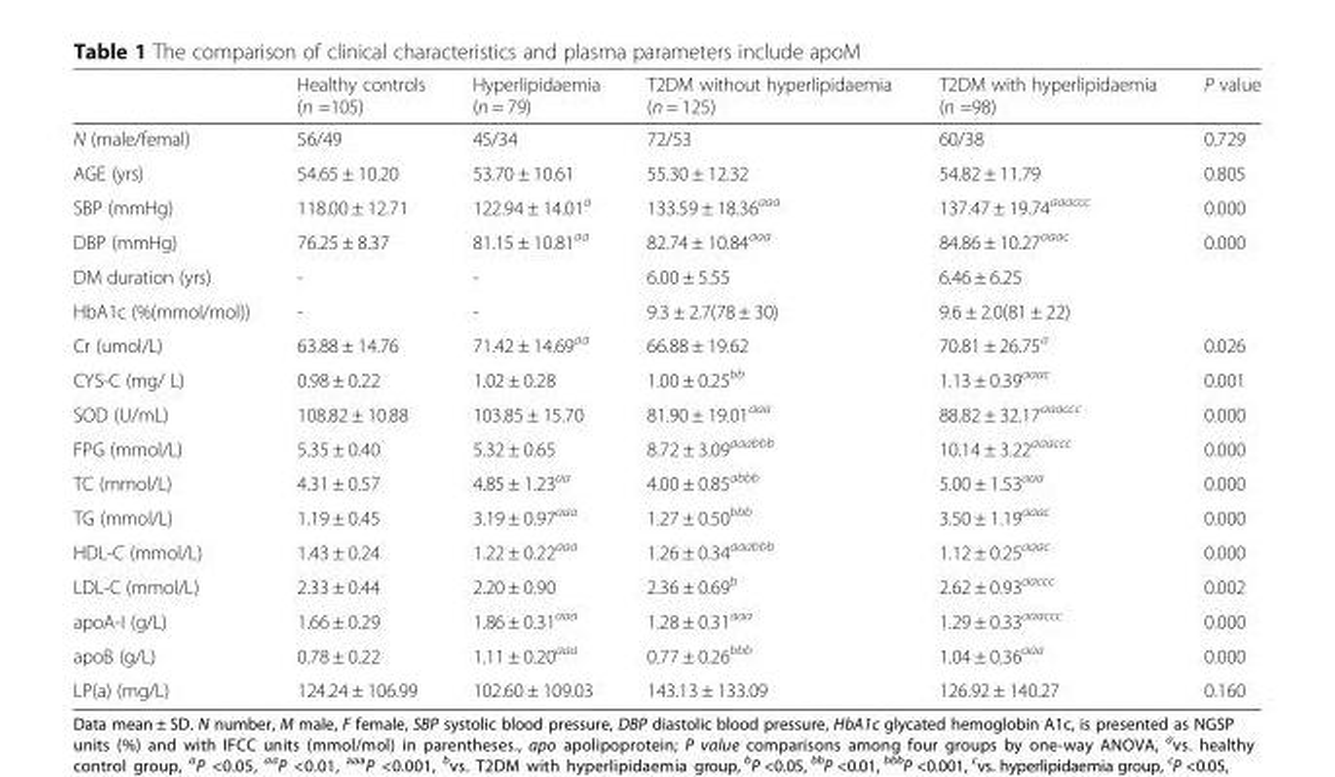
<table><thead><tr><td></td><td>Healthy controls (n =105)</td><td>Hyperlipidaemia (n = 79)</td><td>T2DM without hyperlipidaemia (n = 125)</td><td>T2DM with hyperlipidaemia (n =98)</td><td>P value</td></tr></thead><tbody><tr><td>N (male/femal)</td><td>56/49</td><td>45/34</td><td>72/53</td><td>60/38</td><td>0.729</td></tr><tr><td>AGE (yrs)</td><td>54.65 ± 10.20</td><td>53.70 ± 10.61</td><td>55.30 ± 12.32</td><td>54.82 ± 11.79</td><td>0.805</td></tr><tr><td>SBP (mmHg)</td><td>118.00 ± 12.71</td><td>122.94 ± 14.01<sup>a</sup></td><td>133.59 ± 18.36<sup>aaa</sup></td><td>137.47 ± 19.74<sup>aaaccc</sup></td><td>0.000</td></tr><tr><td>DBP (mmHg)</td><td>76.25 ± 8.37</td><td>81.15 ± 10.81<sup>aa</sup></td><td>82.74 ± 10.84<sup>aaa</sup></td><td>84.86 ± 10.27<sup>aaac</sup></td><td>0.000</td></tr><tr><td>DM duration (yrs)</td><td>-</td><td>-</td><td>6.00 ± 5.55</td><td>6.46 ± 6.25</td><td></td></tr><tr><td>HbA1c (%(mmol/mol))</td><td>-</td><td>-</td><td>9.3 ± 2.7(78 ± 30)</td><td>9.6 ± 2.0(81 ± 22)</td><td></td></tr><tr><td>Cr (umol/L)</td><td>63.88 ± 14.76</td><td>71.42 ± 14.69<sup>aa</sup></td><td>66.88 ± 19.62</td><td>70.81 ± 26.75<sup>a</sup></td><td>0.026</td></tr><tr><td>CYS-C (mg/ L)</td><td>0.98 ± 0.22</td><td>1.02 ± 0.28</td><td>1.00 ± 0.25<sup>bb</sup></td><td>1.13 ± 0.39<sup>aaac</sup></td><td>0.001</td></tr><tr><td>SOD (U/mL)</td><td>108.82 ± 10.88</td><td>103.85 ± 15.70</td><td>81.90 ± 19.01<sup>aaa</sup></td><td>88.82 ± 32.17<sup>aaaccc</sup></td><td>0.000</td></tr><tr><td>FPG (mmol/L)</td><td>5.35 ± 0.40</td><td>5.32 ± 0.65</td><td>8.72 ± 3.09<sup>aaabbb</sup></td><td>10.14 ± 3.22<sup>aaaccc</sup></td><td>0.000</td></tr><tr><td>TC (mmol/L)</td><td>4.31 ± 0.57</td><td>4.85 ± 1.23<sup>aa</sup></td><td>4.00 ± 0.85<sup>abbb</sup></td><td>5.00 ± 1.53<sup>aaa</sup></td><td>0.000</td></tr><tr><td>TG (mmol/L)</td><td>1.19 ± 0.45</td><td>3.19 ± 0.97<sup>aaa</sup></td><td>1.27 ± 0.50<sup>bbb</sup></td><td>3.50 ± 1.19<sup>aaac</sup></td><td>0.000</td></tr><tr><td>HDL-C (mmol/L)</td><td>1.43 ± 0.24</td><td>1.22 ± 0.22<sup>aaa</sup></td><td>1.26 ± 0.34<sup>aaabbb</sup></td><td>1.12 ± 0.25<sup>aaac</sup></td><td>0.000</td></tr><tr><td>LDL-C (mmol/L)</td><td>2.33 ± 0.44</td><td>2.20 ± 0.90</td><td>2.36 ± 0.69<sup>b</sup></td><td>2.62 ± 0.93<sup>aaccc</sup></td><td>0.002</td></tr><tr><td>apoA-I (g/L)</td><td>1.66 ± 0.29</td><td>1.86 ± 0.31<sup>aaa</sup></td><td>1.28 ± 0.31<sup>aaa</sup></td><td>1.29 ± 0.33<sup>aaaccc</sup></td><td>0.000</td></tr><tr><td>apoB (g/L)</td><td>0.78 ± 0.22</td><td>1.11 ± 0.20<sup>aaa</sup></td><td>0.77 ± 0.26<sup>bbb</sup></td><td>1.04 ± 0.36<sup>aaa</sup></td><td>0.000</td></tr><tr><td>LP(a) (mg/L)</td><td>124.24 ± 106.99</td><td>102.60 ± 109.03</td><td>143.13 ± 133.09</td><td>126.92 ± 140.27</td><td>0.160</td></tr></tbody></table>